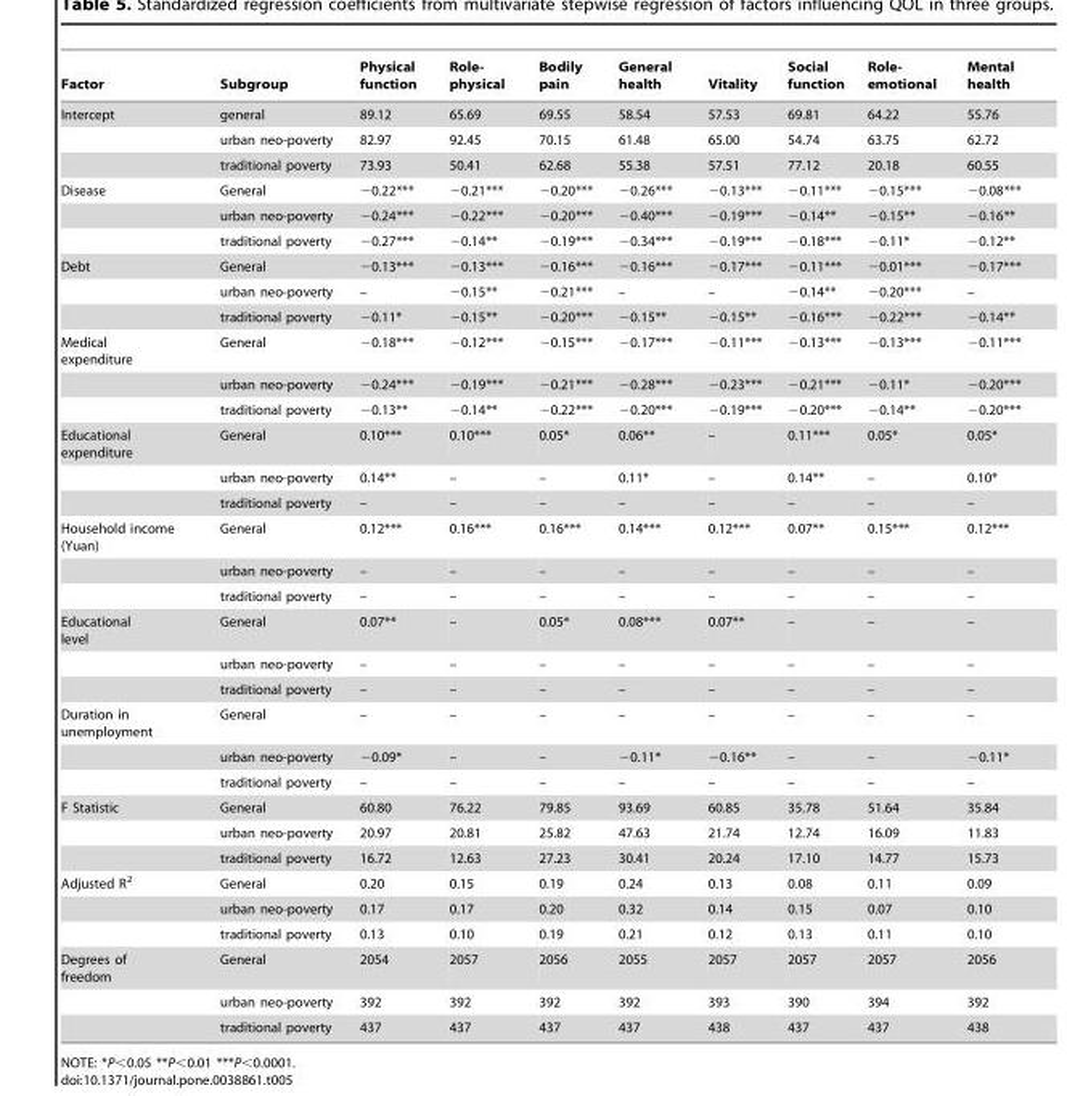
<table><thead><tr><td>Factor</td><td>Subgroup</td><td>Physical function</td><td>Role- physical</td><td>Bodily pain</td><td>General health</td><td>Vitality</td><td>Social function</td><td>Role- emotional</td><td>Mental health</td></tr></thead><tbody><tr><td rowspan="3">Intercept</td><td>general</td><td>89.12</td><td>65.69</td><td>69.55</td><td>58.54</td><td>57.53</td><td>69.81</td><td>64.22</td><td>55.76</td></tr><tr><td>urban neo-poverty</td><td>82.97</td><td>92.45</td><td>70.15</td><td>61.48</td><td>65.00</td><td>54.74</td><td>63.75</td><td>62.72</td></tr><tr><td>traditional poverty</td><td>73.93</td><td>50.41</td><td>62.68</td><td>55.38</td><td>57.51</td><td>77.12</td><td>20.18</td><td>60.55</td></tr><tr><td rowspan="3">Disease</td><td>General</td><td>−0.22***</td><td>−0.21***</td><td>−0.20***</td><td>−0.26***</td><td>−0.13***</td><td>−0.11***</td><td>−0.15***</td><td>−0.08***</td></tr><tr><td>urban neo-poverty</td><td>−0.24***</td><td>−0.22***</td><td>−0.20***</td><td>−0.40***</td><td>−0.19***</td><td>−0.14**</td><td>−0.15**</td><td>−0.16**</td></tr><tr><td>traditional poverty</td><td>−0.27***</td><td>−0.14**</td><td>−0.19***</td><td>−0.34***</td><td>−0.19***</td><td>−0.18***</td><td>−0.11*</td><td>−0.12**</td></tr><tr><td rowspan="3">Debt</td><td>General</td><td>−0.13***</td><td>−0.13***</td><td>−0.16***</td><td>−0.16***</td><td>−0.17***</td><td>−0.11***</td><td>−0.01***</td><td>−0.17***</td></tr><tr><td>urban neo-poverty</td><td>–</td><td>−0.15**</td><td>−0.21***</td><td>–</td><td>–</td><td>−0.14**</td><td>−0.20***</td><td>–</td></tr><tr><td>traditional poverty</td><td>−0.11*</td><td>−0.15**</td><td>−0.20***</td><td>−0.15**</td><td>−0.15**</td><td>−0.16***</td><td>−0.22***</td><td>−0.14**</td></tr><tr><td rowspan="3">Medical expenditure</td><td>General</td><td>−0.18***</td><td>−0.12***</td><td>−0.15***</td><td>−0.17***</td><td>−0.11***</td><td>−0.13***</td><td>−0.13***</td><td>−0.11***</td></tr><tr><td>urban neo-poverty</td><td>−0.24***</td><td>−0.19***</td><td>−0.21***</td><td>−0.28***</td><td>−0.23***</td><td>−0.21***</td><td>−0.11*</td><td>−0.20***</td></tr><tr><td>traditional poverty</td><td>−0.13**</td><td>−0.14**</td><td>−0.22***</td><td>−0.20***</td><td>−0.19***</td><td>−0.20***</td><td>−0.14**</td><td>−0.20***</td></tr><tr><td rowspan="3">Educational expenditure</td><td>General</td><td>0.10***</td><td>0.10***</td><td>0.05*</td><td>0.06**</td><td>–</td><td>0.11***</td><td>0.05*</td><td>0.05*</td></tr><tr><td>urban neo-poverty</td><td>0.14**</td><td>–</td><td>–</td><td>0.11*</td><td>–</td><td>0.14**</td><td>–</td><td>0.10*</td></tr><tr><td>traditional poverty</td><td>–</td><td>–</td><td>–</td><td>–</td><td>–</td><td>–</td><td>–</td><td>–</td></tr><tr><td rowspan="3">Household income (Yuan)</td><td>General</td><td>0.12***</td><td>0.16***</td><td>0.16***</td><td>0.14***</td><td>0.12***</td><td>0.07**</td><td>0.15***</td><td>0.12***</td></tr><tr><td>urban neo-poverty</td><td>–</td><td>–</td><td>–</td><td>–</td><td>–</td><td>–</td><td>–</td><td>–</td></tr><tr><td>traditional poverty</td><td>–</td><td>–</td><td>–</td><td>–</td><td>–</td><td>–</td><td>–</td><td>–</td></tr><tr><td rowspan="3">Educational level</td><td>General</td><td>0.07**</td><td>–</td><td>0.05*</td><td>0.08***</td><td>0.07**</td><td>–</td><td>–</td><td>–</td></tr><tr><td>urban neo-poverty</td><td>–</td><td>–</td><td>–</td><td>–</td><td>–</td><td>–</td><td>–</td><td>–</td></tr><tr><td>traditional poverty</td><td>–</td><td>–</td><td>–</td><td>–</td><td>–</td><td>–</td><td>–</td><td>–</td></tr><tr><td rowspan="3">Duration in unemployment</td><td>General</td><td>–</td><td>–</td><td>–</td><td>–</td><td>–</td><td>–</td><td>–</td><td>–</td></tr><tr><td>urban neo-poverty</td><td>−0.09*</td><td>–</td><td>–</td><td>−0.11*</td><td>−0.16**</td><td>–</td><td>–</td><td>−0.11*</td></tr><tr><td>traditional poverty</td><td>–</td><td>–</td><td>–</td><td>–</td><td>–</td><td>–</td><td>–</td><td>–</td></tr><tr><td rowspan="3">F Statistic</td><td>General</td><td>60.80</td><td>76.22</td><td>79.85</td><td>93.69</td><td>60.85</td><td>35.78</td><td>51.64</td><td>35.84</td></tr><tr><td>urban neo-poverty</td><td>20.97</td><td>20.81</td><td>25.82</td><td>47.63</td><td>21.74</td><td>12.74</td><td>16.09</td><td>11.83</td></tr><tr><td>traditional poverty</td><td>16.72</td><td>12.63</td><td>27.23</td><td>30.41</td><td>20.24</td><td>17.10</td><td>14.77</td><td>15.73</td></tr><tr><td rowspan="3">Adjusted R<sup>2</sup></td><td>General</td><td>0.20</td><td>0.15</td><td>0.19</td><td>0.24</td><td>0.13</td><td>0.08</td><td>0.11</td><td>0.09</td></tr><tr><td>urban neo-poverty</td><td>0.17</td><td>0.17</td><td>0.20</td><td>0.32</td><td>0.14</td><td>0.15</td><td>0.07</td><td>0.10</td></tr><tr><td>traditional poverty</td><td>0.13</td><td>0.10</td><td>0.19</td><td>0.21</td><td>0.12</td><td>0.13</td><td>0.11</td><td>0.10</td></tr><tr><td rowspan="3">Degrees of freedom</td><td>General</td><td>2054</td><td>2057</td><td>2056</td><td>2055</td><td>2057</td><td>2057</td><td>2057</td><td>2056</td></tr><tr><td>urban neo-poverty</td><td>392</td><td>392</td><td>392</td><td>392</td><td>393</td><td>390</td><td>394</td><td>392</td></tr><tr><td>traditional poverty</td><td>437</td><td>437</td><td>437</td><td>437</td><td>438</td><td>437</td><td>437</td><td>438</td></tr></tbody></table>